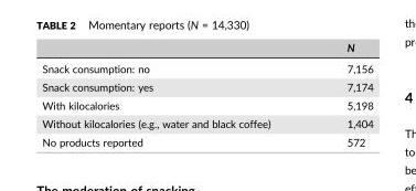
<table><thead><tr><td></td><td>N</td></tr></thead><tbody><tr><td>Snack consumption: no</td><td>7,156</td></tr><tr><td>Snack consumption: yes</td><td>7,174</td></tr><tr><td>With kilocalories</td><td>5,198</td></tr><tr><td>Without kilocalories (e.g., water and black coffee)</td><td>1,404</td></tr><tr><td>No products reported</td><td>572</td></tr></tbody></table>